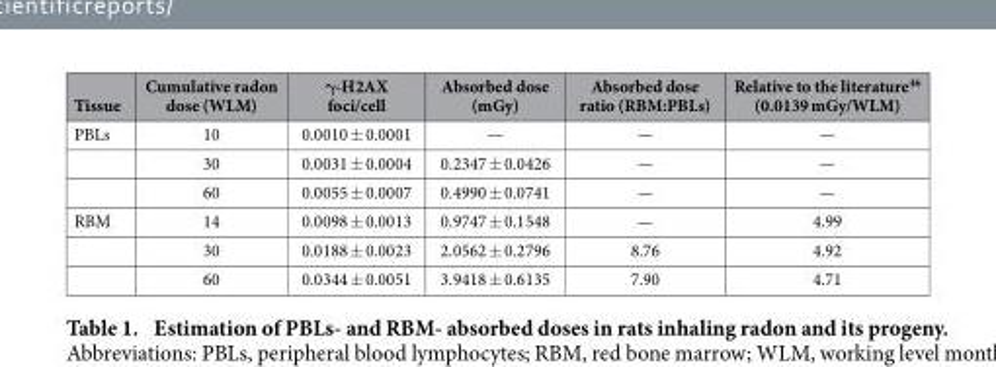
<table><thead><tr><td>Tissue</td><td>Cumulative radon dose (WLM)</td><td>γ-H2AX foci/cell</td><td>Absorbed dose (mGy)</td><td>Absorbed dose ratio (RBM:PBLs)</td><td>Relative to the literature<sup>46</sup> (0.0139 mGy/WLM)</td></tr></thead><tbody><tr><td rowspan="3">PBLs</td><td>10</td><td>0.0010 ± 0.0001</td><td>—</td><td>—</td><td>—</td></tr><tr><td>30</td><td>0.0031 ± 0.0004</td><td>0.2347 ± 0.0426</td><td>—</td><td>—</td></tr><tr><td>60</td><td>0.0055 ± 0.0007</td><td>0.4990 ± 0.0741</td><td>—</td><td>—</td></tr><tr><td rowspan="3">RBM</td><td>14</td><td>0.0098 ± 0.0013</td><td>0.9747 ± 0.1548</td><td>—</td><td>4.99</td></tr><tr><td>30</td><td>0.0188 ± 0.0023</td><td>2.0562 ± 0.2796</td><td>8.76</td><td>4.92</td></tr><tr><td>60</td><td>0.0344 ± 0.0051</td><td>3.9418 ± 0.6135</td><td>7.90</td><td>4.71</td></tr></tbody></table>